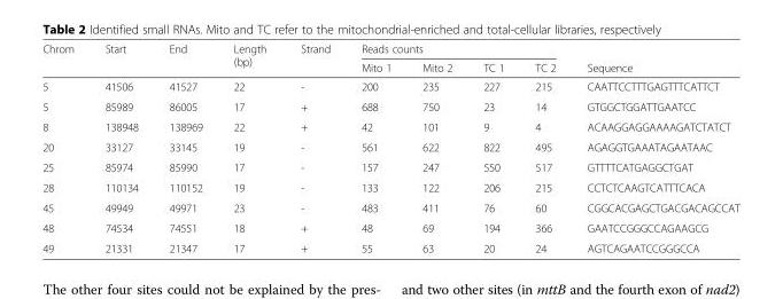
<table><thead><tr><td rowspan="2">Chrom</td><td rowspan="2">Start</td><td rowspan="2">End</td><td rowspan="2">Length (bp)</td><td rowspan="2">Strand</td><td colspan="4">Reads counts</td><td rowspan="2">Sequence</td></tr><tr><td>Mito 1</td><td>Mito 2</td><td>TC 1</td><td>TC 2</td></tr></thead><tbody><tr><td>5</td><td>41506</td><td>41527</td><td>22</td><td>-</td><td>200</td><td>235</td><td>227</td><td>215</td><td>CAATTCCTTTGAGTTTCATTCT</td></tr><tr><td>5</td><td>85989</td><td>86005</td><td>17</td><td>+</td><td>688</td><td>750</td><td>23</td><td>14</td><td>GTGGCTGGATTGAATCC</td></tr><tr><td>8</td><td>138948</td><td>138969</td><td>22</td><td>+</td><td>42</td><td>101</td><td>9</td><td>4</td><td>ACAAGGAGGAAAAGATCTATCT</td></tr><tr><td>20</td><td>33127</td><td>33145</td><td>19</td><td>-</td><td>561</td><td>622</td><td>822</td><td>495</td><td>AGAGGTGAAATAGAATAAC</td></tr><tr><td>25</td><td>85974</td><td>85990</td><td>17</td><td>-</td><td>157</td><td>247</td><td>550</td><td>517</td><td>GTTTTCATGAGGCTGAT</td></tr><tr><td>28</td><td>110134</td><td>110152</td><td>19</td><td>-</td><td>133</td><td>122</td><td>206</td><td>215</td><td>CCTCTCAAGTCATTTCACA</td></tr><tr><td>45</td><td>49949</td><td>49971</td><td>23</td><td>-</td><td>483</td><td>411</td><td>76</td><td>60</td><td>CGGCACGAGCTGACGACAGCCAT</td></tr><tr><td>48</td><td>74534</td><td>74551</td><td>18</td><td>+</td><td>48</td><td>69</td><td>194</td><td>366</td><td>GAATCCGGGCCAGAAGCG</td></tr><tr><td>49</td><td>21331</td><td>21347</td><td>17</td><td>+</td><td>55</td><td>63</td><td>20</td><td>24</td><td>AGTCAGAATCCGGGCCA</td></tr></tbody></table>